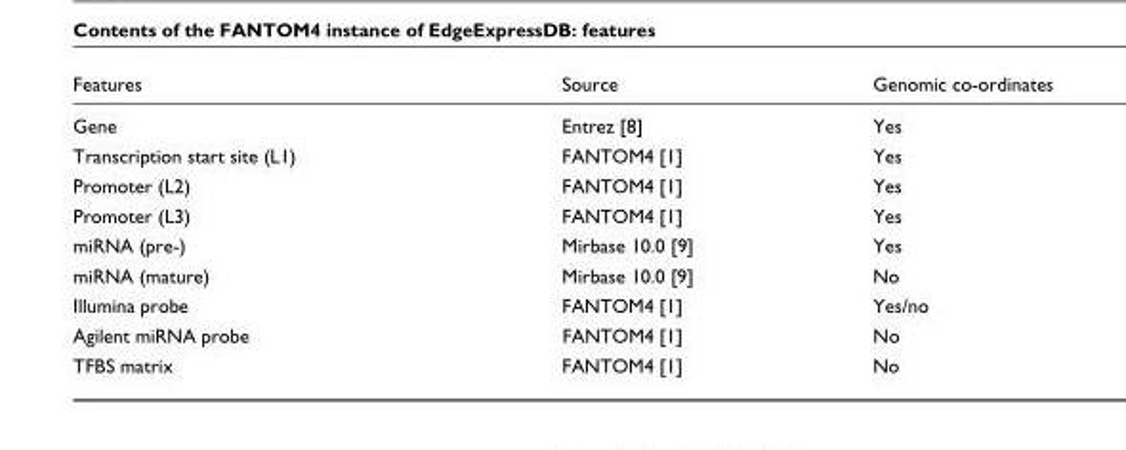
<table><thead><tr><td>Features</td><td>Source</td><td>Genomic co-ordinates</td></tr></thead><tbody><tr><td>Gene</td><td>Entrez [8]</td><td>Yes</td></tr><tr><td>Transcription start site (L1)</td><td>FANTOM4 [1]</td><td>Yes</td></tr><tr><td>Promoter (L2)</td><td>FANTOM4 [1]</td><td>Yes</td></tr><tr><td>Promoter (L3)</td><td>FANTOM4 [1]</td><td>Yes</td></tr><tr><td>miRNA (pre-)</td><td>Mirbase 10.0 [9]</td><td>Yes</td></tr><tr><td>miRNA (mature)</td><td>Mirbase 10.0 [9]</td><td>No</td></tr><tr><td>Illumina probe</td><td>FANTOM4 [1]</td><td>Yes/no</td></tr><tr><td>Agilent miRNA probe</td><td>FANTOM4 [1]</td><td>No</td></tr><tr><td>TFBS matrix</td><td>FANTOM4 [1]</td><td>No</td></tr></tbody></table>